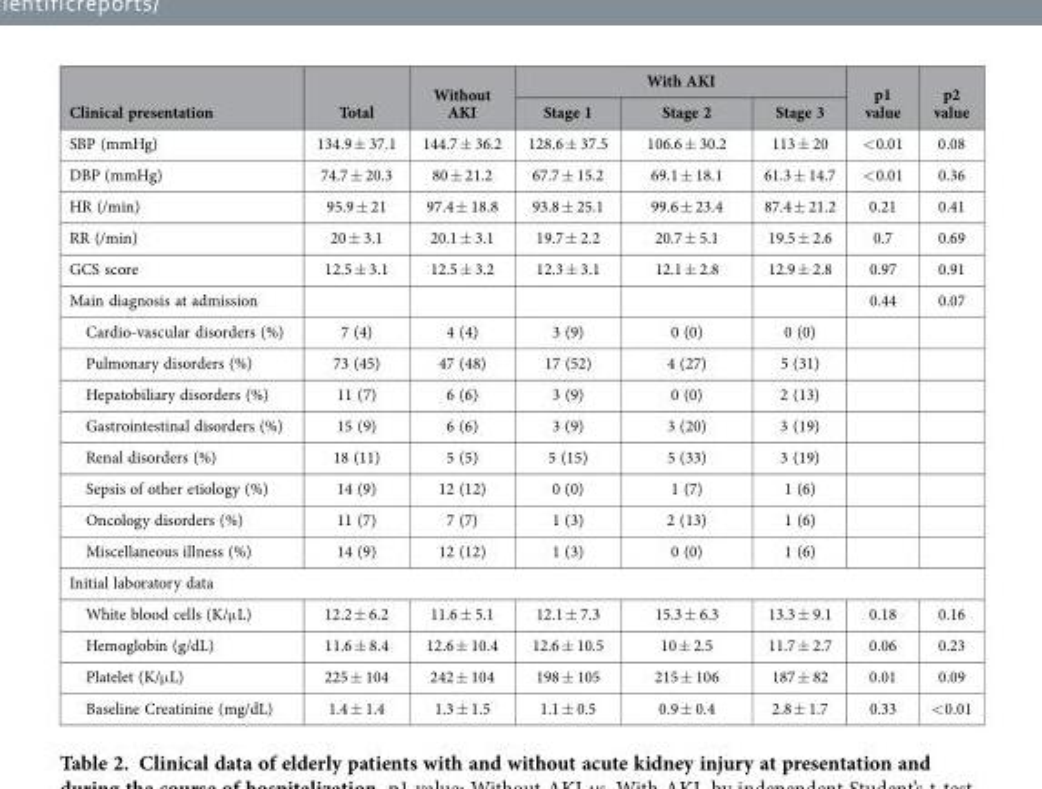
<table><thead><tr><td rowspan="2">Clinical presentation</td><td rowspan="2">Total</td><td rowspan="2">Without AKI</td><td colspan="3">With AKI</td><td rowspan="2">p1 value</td><td rowspan="2">p2 value</td></tr><tr><td>Stage 1</td><td>Stage 2</td><td>Stage 3</td></tr></thead><tbody><tr><td>SBP (mmHg)</td><td>134.9 ± 37.1</td><td>144.7 ± 36.2</td><td>128.6 ± 37.5</td><td>106.6 ± 30.2</td><td>113 ± 20</td><td>&lt; 0.01</td><td>0.08</td></tr><tr><td>DBP (mmHg)</td><td>74.7 ± 20.3</td><td>80 ± 21.2</td><td>67.7 ± 15.2</td><td>69.1 ± 18.1</td><td>61.3 ± 14.7</td><td>&lt; 0.01</td><td>0.36</td></tr><tr><td>HR (/min)</td><td>95.9 ± 21</td><td>97.4 ± 18.8</td><td>93.8 ± 25.1</td><td>99.6 ± 23.4</td><td>87.4 ± 21.2</td><td>0.21</td><td>0.41</td></tr><tr><td>RR (/min)</td><td>20 ± 3.1</td><td>20.1 ± 3.1</td><td>19.7 ± 2.2</td><td>20.7 ± 5.1</td><td>19.5 ± 2.6</td><td>0.7</td><td>0.69</td></tr><tr><td>GCS score</td><td>12.5 ± 3.1</td><td>12.5 ± 3.2</td><td>12.3 ± 3.1</td><td>12.1 ± 2.8</td><td>12.9 ± 2.8</td><td>0.97</td><td>0.91</td></tr><tr><td>Main diagnosis at admission</td><td></td><td></td><td></td><td></td><td></td><td>0.44</td><td>0.07</td></tr><tr><td>Cardio-vascular disorders (%)</td><td>7 (4)</td><td>4 (4)</td><td>3 (9)</td><td>0 (0)</td><td>0 (0)</td><td></td><td></td></tr><tr><td>Pulmonary disorders (%)</td><td>73 (45)</td><td>47 (48)</td><td>17 (52)</td><td>4 (27)</td><td>5 (31)</td><td></td><td></td></tr><tr><td>Hepatobiliary disorders (%)</td><td>11 (7)</td><td>6 (6)</td><td>3 (9)</td><td>0 (0)</td><td>2 (13)</td><td></td><td></td></tr><tr><td>Gastrointestinal disorders (%)</td><td>15 (9)</td><td>6 (6)</td><td>3 (9)</td><td>3 (20)</td><td>3 (19)</td><td></td><td></td></tr><tr><td>Renal disorders (%)</td><td>18 (11)</td><td>5 (5)</td><td>5 (15)</td><td>5 (33)</td><td>3 (19)</td><td></td><td></td></tr><tr><td>Sepsis of other etiology (%)</td><td>14 (9)</td><td>12 (12)</td><td>0 (0)</td><td>1 (7)</td><td>1 (6)</td><td></td><td></td></tr><tr><td>Oncology disorders (%)</td><td>11 (7)</td><td>7 (7)</td><td>1 (3)</td><td>2 (13)</td><td>1 (6)</td><td></td><td></td></tr><tr><td>Miscellaneous illness (%)</td><td>14 (9)</td><td>12 (12)</td><td>1 (3)</td><td>0 (0)</td><td>1 (6)</td><td></td><td></td></tr><tr><td colspan="8">Initial laboratory data</td></tr><tr><td>White blood cells (K/μ L)</td><td>12.2 ± 6.2</td><td>11.6 ± 5.1</td><td>12.1 ± 7.3</td><td>15.3 ± 6.3</td><td>13.3 ± 9.1</td><td>0.18</td><td>0.16</td></tr><tr><td>Hemoglobin (g/dL)</td><td>11.6 ± 8.4</td><td>12.6 ± 10.4</td><td>12.6 ± 10.5</td><td>10 ± 2.5</td><td>11.7 ± 2.7</td><td>0.06</td><td>0.23</td></tr><tr><td>Platelet (K/μ L)</td><td>225 ± 104</td><td>242 ± 104</td><td>198 ± 105</td><td>215 ± 106</td><td>187 ± 82</td><td>0.01</td><td>0.09</td></tr><tr><td>Baseline Creatinine (mg/dL)</td><td>1.4 ± 1.4</td><td>1.3 ± 1.5</td><td>1.1 ± 0.5</td><td>0.9 ± 0.4</td><td>2.8 ± 1.7</td><td>0.33</td><td>&lt; 0.01</td></tr></tbody></table>